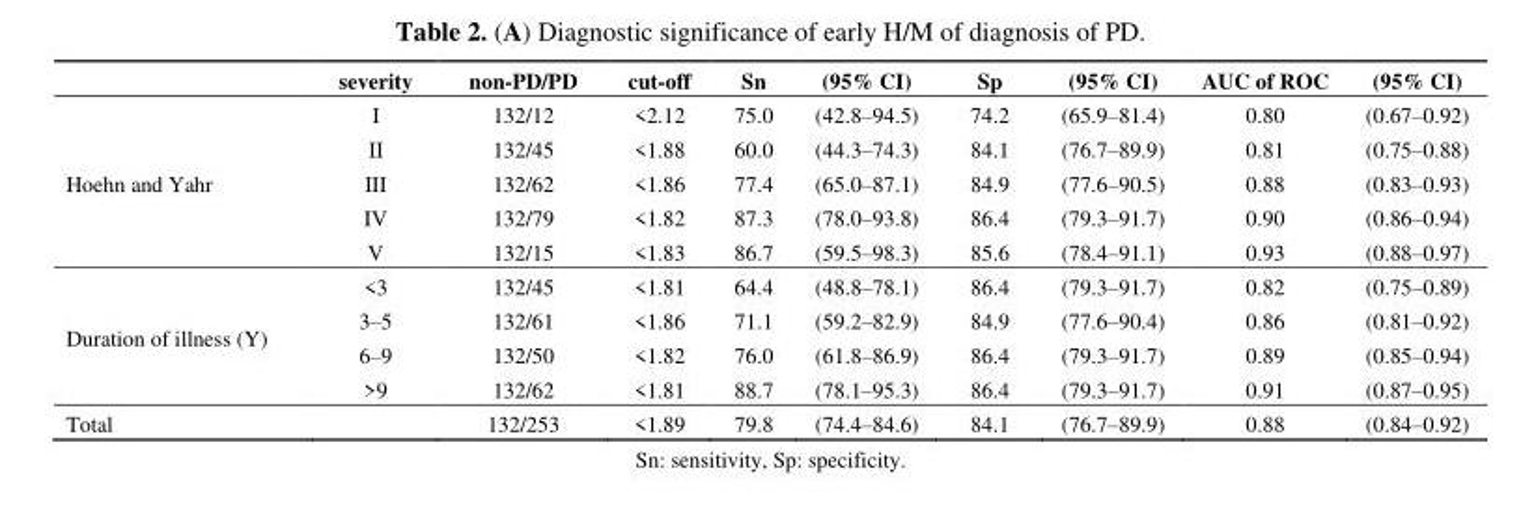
<table><thead><tr><td></td><td>severity</td><td>non-PD/PD</td><td>cut-off</td><td>Sn</td><td>(95% CI)</td><td>Sp</td><td>(95% CI)</td><td>AUC of ROC</td><td>(95% CI)</td></tr></thead><tbody><tr><td rowspan="5">Hoehn and Yahr</td><td>I</td><td>132/12</td><td>&lt;2.12</td><td>75.0</td><td>(42.8–94.5)</td><td>74.2</td><td>(65.9–81.4)</td><td>0.80</td><td>(0.67–0.92)</td></tr><tr><td>II</td><td>132/45</td><td>&lt;1.88</td><td>60.0</td><td>(44.3–74.3)</td><td>84.1</td><td>(76.7–89.9)</td><td>0.81</td><td>(0.75–0.88)</td></tr><tr><td>III</td><td>132/62</td><td>&lt;1.86</td><td>77.4</td><td>(65.0–87.1)</td><td>84.9</td><td>(77.6–90.5)</td><td>0.88</td><td>(0.83–0.93)</td></tr><tr><td>IV</td><td>132/79</td><td>&lt;1.82</td><td>87.3</td><td>(78.0–93.8)</td><td>86.4</td><td>(79.3–91.7)</td><td>0.90</td><td>(0.86–0.94)</td></tr><tr><td>V</td><td>132/15</td><td>&lt;1.83</td><td>86.7</td><td>(59.5–98.3)</td><td>85.6</td><td>(78.4–91.1)</td><td>0.93</td><td>(0.88–0.97)</td></tr><tr><td rowspan="4">Duration of illness (Y)</td><td>&lt;3</td><td>132/45</td><td>&lt;1.81</td><td>64.4</td><td>(48.8–78.1)</td><td>86.4</td><td>(79.3–91.7)</td><td>0.82</td><td>(0.75–0.89)</td></tr><tr><td>3–5</td><td>132/61</td><td>&lt;1.86</td><td>71.1</td><td>(59.2–82.9)</td><td>84.9</td><td>(77.6–90.4)</td><td>0.86</td><td>(0.81–0.92)</td></tr><tr><td>6–9</td><td>132/50</td><td>&lt;1.82</td><td>76.0</td><td>(61.8–86.9)</td><td>86.4</td><td>(79.3–91.7)</td><td>0.89</td><td>(0.85–0.94)</td></tr><tr><td>&gt;9</td><td>132/62</td><td>&lt;1.81</td><td>88.7</td><td>(78.1–95.3)</td><td>86.4</td><td>(79.3–91.7)</td><td>0.91</td><td>(0.87–0.95)</td></tr><tr><td>Total</td><td></td><td>132/253</td><td>&lt;1.89</td><td>79.8</td><td>(74.4–84.6)</td><td>84.1</td><td>(76.7–89.9)</td><td>0.88</td><td>(0.84–0.92)</td></tr></tbody></table>